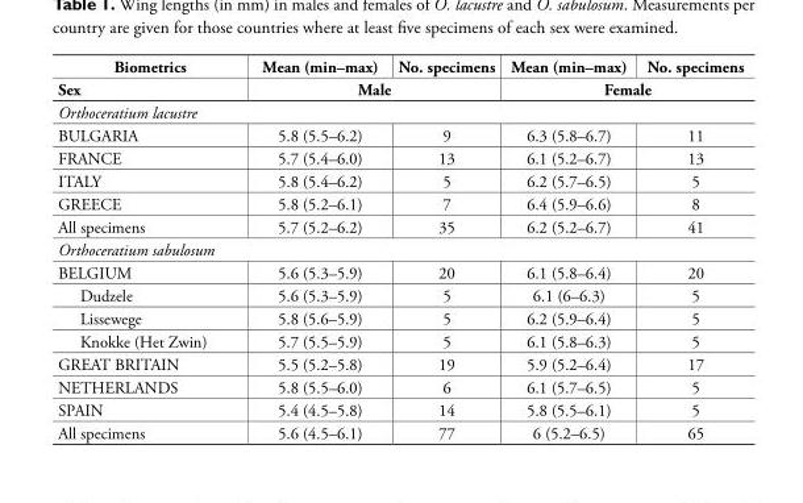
<table><thead><tr><td rowspan="2">Biometrics Sex</td><td>Mean (min–max)</td><td>No. specimens</td><td>Mean (min–max)</td><td>No. specimens</td></tr><tr><td colspan="2">Male</td><td colspan="2">Female</td></tr></thead><tbody><tr><td colspan="5">Orthoceratium lacustre</td></tr><tr><td>BULGARIA</td><td>5.8 (5.5–6.2)</td><td>9</td><td>6.3 (5.8–6.7)</td><td>11</td></tr><tr><td>FRANCE</td><td>5.7 (5.4–6.0)</td><td>13</td><td>6.1 (5.2–6.7)</td><td>13</td></tr><tr><td>ITALY</td><td>5.8 (5.4–6.2)</td><td>5</td><td>6.2 (5.7–6.5)</td><td>5</td></tr><tr><td>GREECE</td><td>5.8 (5.2–6.1)</td><td>7</td><td>6.4 (5.9–6.6)</td><td>8</td></tr><tr><td>All specimens</td><td>5.7 (5.2–6.2)</td><td>35</td><td>6.2 (5.2–6.7)</td><td>41</td></tr><tr><td colspan="5">Orthoceratium sabulosum</td></tr><tr><td>BELGIUM</td><td>5.6 (5.3–5.9)</td><td>20</td><td>6.1 (5.8–6.4)</td><td>20</td></tr><tr><td>Dudzele</td><td>5.6 (5.3–5.9)</td><td>5</td><td>6.1 (6–6.3)</td><td>5</td></tr><tr><td>Lissewege</td><td>5.8 (5.6–5.9)</td><td>5</td><td>6.2 (5.9–6.4)</td><td>5</td></tr><tr><td>Knokke (Het Zwin)</td><td>5.7 (5.5–5.9)</td><td>5</td><td>6.1 (5.8–6.3)</td><td>5</td></tr><tr><td>GREAT BRITAIN</td><td>5.5 (5.2–5.8)</td><td>19</td><td>5.9 (5.2–6.4)</td><td>17</td></tr><tr><td>NETHERLANDS</td><td>5.8 (5.5–6.0)</td><td>6</td><td>6.1 (5.7–6.5)</td><td>5</td></tr><tr><td>SPAIN</td><td>5.4 (4.5–5.8)</td><td>14</td><td>5.8 (5.5–6.1)</td><td>5</td></tr><tr><td>All specimens</td><td>5.6 (4.5–6.1)</td><td>77</td><td>6 (5.2–6.5)</td><td>65</td></tr></tbody></table>